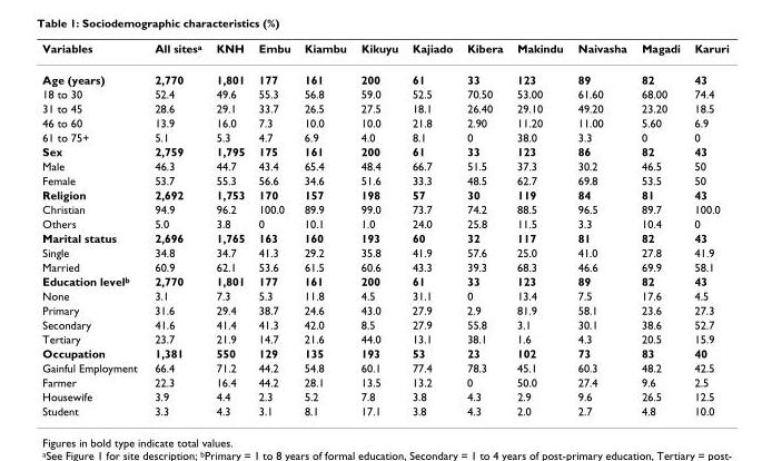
<table><thead><tr><td>Variables</td><td>All sites<sup>a</sup></td><td>KNH</td><td>Embu</td><td>Kiambu</td><td>Kikuyu</td><td>Kajiado</td><td>Kibera</td><td>Makindu</td><td>Naivasha</td><td>Magadi</td><td>Karuri</td></tr></thead><tbody><tr><td>Age (years)</td><td>2,770</td><td>1,801</td><td>177</td><td>161</td><td>200</td><td>61</td><td>33</td><td>123</td><td>89</td><td>82</td><td>43</td></tr><tr><td>18 to 30</td><td>52.4</td><td>49.6</td><td>55.3</td><td>56.8</td><td>59.0</td><td>52.5</td><td>70.50</td><td>53.00</td><td>61.60</td><td>68.00</td><td>74.4</td></tr><tr><td>31 to 45</td><td>28.6</td><td>29.1</td><td>33.7</td><td>26.5</td><td>27.5</td><td>18.1</td><td>26.40</td><td>29.10</td><td>49.20</td><td>23.20</td><td>18.5</td></tr><tr><td>46 to 60</td><td>13.9</td><td>16.0</td><td>7.3</td><td>10.0</td><td>10.0</td><td>21.8</td><td>2.90</td><td>11.20</td><td>11.00</td><td>5.60</td><td>6.9</td></tr><tr><td>61 to 75+</td><td>5.1</td><td>5.3</td><td>4.7</td><td>6.9</td><td>4.0</td><td>8.1</td><td>0</td><td>38.0</td><td>3.3</td><td>0</td><td>0</td></tr><tr><td>Sex</td><td>2,759</td><td>1,795</td><td>175</td><td>161</td><td>200</td><td>61</td><td>33</td><td>123</td><td>86</td><td>82</td><td>43</td></tr><tr><td>Male</td><td>46.3</td><td>44.7</td><td>43.4</td><td>65.4</td><td>48.4</td><td>66.7</td><td>51.5</td><td>37.3</td><td>30.2</td><td>46.5</td><td>50</td></tr><tr><td>Female</td><td>53.7</td><td>55.3</td><td>56.6</td><td>34.6</td><td>51.6</td><td>33.3</td><td>48.5</td><td>62.7</td><td>69.8</td><td>53.5</td><td>50</td></tr><tr><td>Religion</td><td>2,692</td><td>1,753</td><td>170</td><td>157</td><td>198</td><td>57</td><td>30</td><td>119</td><td>84</td><td>81</td><td>43</td></tr><tr><td>Christian</td><td>94.9</td><td>96.2</td><td>100.0</td><td>89.9</td><td>99.0</td><td>73.7</td><td>74.2</td><td>88.5</td><td>96.5</td><td>89.7</td><td>100.0</td></tr><tr><td>Others</td><td>5.0</td><td>3.8</td><td>0</td><td>10.1</td><td>1.0</td><td>24.0</td><td>25.8</td><td>11.5</td><td>3.3</td><td>10.4</td><td>0</td></tr><tr><td>Marital status</td><td>2,696</td><td>1,765</td><td>163</td><td>160</td><td>193</td><td>60</td><td>32</td><td>117</td><td>81</td><td>82</td><td>43</td></tr><tr><td>Single</td><td>34.8</td><td>34.7</td><td>41.3</td><td>29.2</td><td>35.8</td><td>41.9</td><td>57.6</td><td>25.0</td><td>41.0</td><td>27.8</td><td>41.9</td></tr><tr><td>Married</td><td>60.9</td><td>62.1</td><td>53.6</td><td>61.5</td><td>60.6</td><td>43.3</td><td>39.3</td><td>68.3</td><td>46.6</td><td>69.9</td><td>58.1</td></tr><tr><td>Education level<sup>b</sup></td><td>2,770</td><td>1,801</td><td>177</td><td>161</td><td>200</td><td>61</td><td>33</td><td>123</td><td>89</td><td>82</td><td>43</td></tr><tr><td>None</td><td>3.1</td><td>7.3</td><td>5.3</td><td>11.8</td><td>4.5</td><td>31.1</td><td>0</td><td>13.4</td><td>7.5</td><td>17.6</td><td>4.5</td></tr><tr><td>Primary</td><td>31.6</td><td>29.4</td><td>38.7</td><td>24.6</td><td>43.0</td><td>27.9</td><td>2.9</td><td>81.9</td><td>58.1</td><td>23.6</td><td>27.3</td></tr><tr><td>Secondary</td><td>41.6</td><td>41.4</td><td>41.3</td><td>42.0</td><td>8.5</td><td>27.9</td><td>55.8</td><td>3.1</td><td>30.1</td><td>38.6</td><td>52.7</td></tr><tr><td>Tertiary</td><td>23.7</td><td>21.9</td><td>14.7</td><td>21.6</td><td>44.0</td><td>13.1</td><td>38.1</td><td>1.6</td><td>4.3</td><td>20.5</td><td>15.9</td></tr><tr><td>Occupation</td><td>1,381</td><td>550</td><td>129</td><td>135</td><td>193</td><td>53</td><td>23</td><td>102</td><td>73</td><td>83</td><td>40</td></tr><tr><td>Gainful Employment</td><td>66.4</td><td>71.2</td><td>44.2</td><td>54.8</td><td>60.1</td><td>77.4</td><td>78.3</td><td>45.1</td><td>60.3</td><td>48.2</td><td>42.5</td></tr><tr><td>Farmer</td><td>22.3</td><td>16.4</td><td>44.2</td><td>28.1</td><td>13.5</td><td>13.2</td><td>0</td><td>50.0</td><td>27.4</td><td>9.6</td><td>2.5</td></tr><tr><td>Housewife</td><td>3.9</td><td>4.4</td><td>2.3</td><td>5.2</td><td>7.8</td><td>3.8</td><td>4.3</td><td>2.9</td><td>9.6</td><td>26.5</td><td>12.5</td></tr><tr><td>Student</td><td>3.3</td><td>4.3</td><td>3.1</td><td>8.1</td><td>17.1</td><td>3.8</td><td>4.3</td><td>2.0</td><td>2.7</td><td>4.8</td><td>10.0</td></tr></tbody></table>